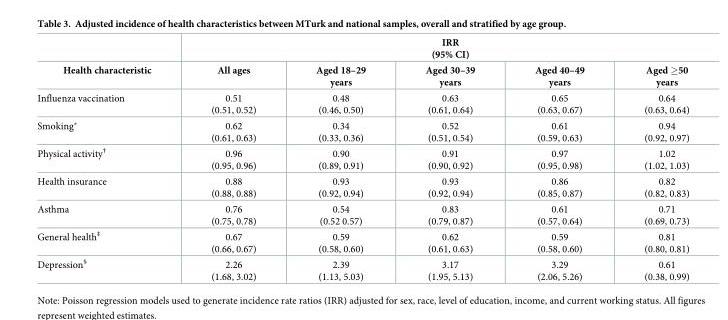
<table><thead><tr><td rowspan="2">Health characteristic</td><td colspan="5">IRR (95% CI)</td></tr><tr><td>All ages</td><td>Aged 18–29 years</td><td>Aged 30–39 years</td><td>Aged 40–49 years</td><td>Aged ≥50 years</td></tr></thead><tbody><tr><td>Influenza vaccination</td><td>0.51 (0.51, 0.52)</td><td>0.48 (0.46, 0.50)</td><td>0.63 (0.61, 0.64)</td><td>0.65 (0.63, 0.67)</td><td>0.64 (0.63, 0.64)</td></tr><tr><td>Smoking*</td><td>0.62 (0.61, 0.63)</td><td>0.34 (0.33, 0.36)</td><td>0.52 (0.51, 0.54)</td><td>0.61 (0.59, 0.63)</td><td>0.94 (0.92, 0.97)</td></tr><tr><td>Physical activity<sup>†</sup></td><td>0.96 (0.95, 0.96)</td><td>0.90 (0.89, 0.91)</td><td>0.91 (0.90, 0.92)</td><td>0.97 (0.95, 0.98)</td><td>1.02 (1.02, 1.03)</td></tr><tr><td>Health insurance</td><td>0.88 (0.88, 0.88)</td><td>0.93 (0.92, 0.94)</td><td>0.93 (0.92, 0.94)</td><td>0.86 (0.85, 0.87)</td><td>0.82 (0.82, 0.83)</td></tr><tr><td>Asthma</td><td>0.76 (0.75, 0.78)</td><td>0.54 (0.52 0.57)</td><td>0.83 (0.79, 0.87)</td><td>0.61 (0.57, 0.64)</td><td>0.71 (0.69, 0.73)</td></tr><tr><td>General health<sup>‡</sup></td><td>0.67 (0.66, 0.67)</td><td>0.59 (0.58, 0.60)</td><td>0.62 (0.61, 0.63)</td><td>0.59 (0.58, 0.60)</td><td>0.81 (0.80, 0.81)</td></tr><tr><td>Depression<sup>§</sup></td><td>2.26 (1.68, 3.02)</td><td>2.39 (1.13, 5.03)</td><td>3.17 (1.95, 5.13)</td><td>3.29 (2.06, 5.26)</td><td>0.61 (0.38, 0.99)</td></tr></tbody></table>